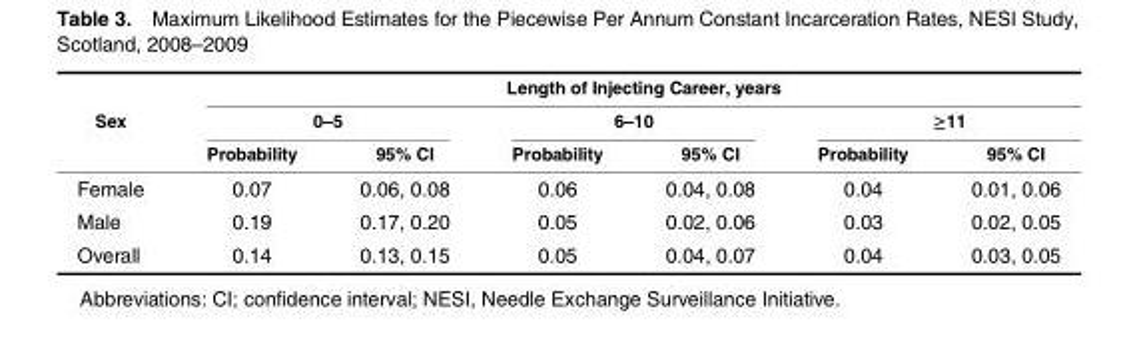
<table><thead><tr><td rowspan="3">Sex</td><td colspan="6">Length of Injecting Career, years</td></tr><tr><td colspan="2">0–5</td><td colspan="2">6–10</td><td colspan="2">≥11</td></tr><tr><td>Probability</td><td>95% CI</td><td>Probability</td><td>95% CI</td><td>Probability</td><td>95% CI</td></tr></thead><tbody><tr><td>Female</td><td>0.07</td><td>0.06, 0.08</td><td>0.06</td><td>0.04, 0.08</td><td>0.04</td><td>0.01, 0.06</td></tr><tr><td>Male</td><td>0.19</td><td>0.17, 0.20</td><td>0.05</td><td>0.02, 0.06</td><td>0.03</td><td>0.02, 0.05</td></tr><tr><td>Overall</td><td>0.14</td><td>0.13, 0.15</td><td>0.05</td><td>0.04, 0.07</td><td>0.04</td><td>0.03, 0.05</td></tr></tbody></table>